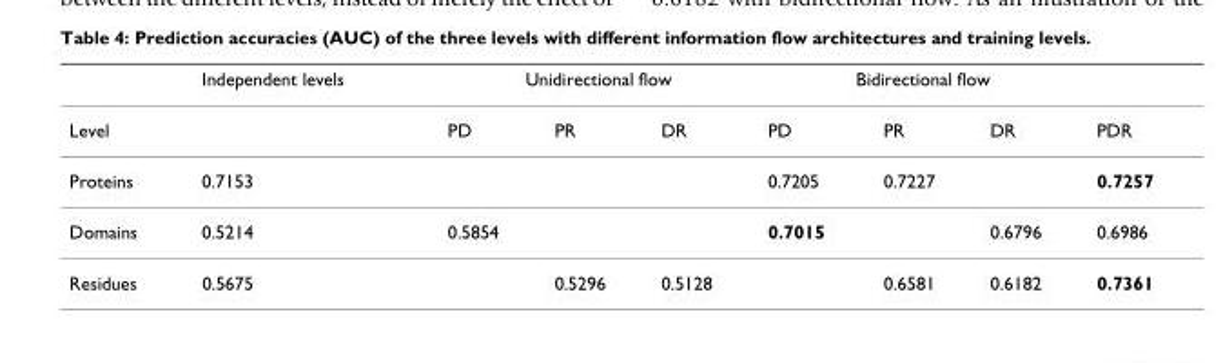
<table><thead><tr><td rowspan="2">Level</td><td rowspan="2">Independent levels</td><td colspan="3">Unidirectional flow</td><td colspan="3">Bidirectional flow</td><td rowspan="2">PDR</td></tr><tr><td>PD</td><td>PR</td><td>DR</td><td>PD</td><td>PR</td><td>DR</td></tr></thead><tbody><tr><td>Proteins</td><td>0.7153</td><td></td><td></td><td></td><td>0.7205</td><td>0.7227</td><td></td><td>0.7257</td></tr><tr><td>Domains</td><td>0.5214</td><td>0.5854</td><td></td><td></td><td>0.7015</td><td></td><td>0.6796</td><td>0.6986</td></tr><tr><td>Residues</td><td>0.5675</td><td></td><td>0.5296</td><td>0.5128</td><td></td><td>0.6581</td><td>0.6182</td><td>0.7361</td></tr></tbody></table>